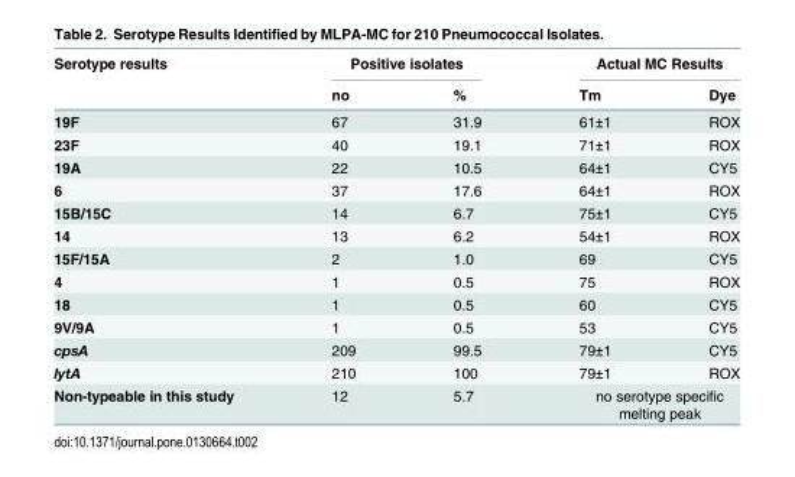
<table><thead><tr><td rowspan="2">Serotype results</td><td colspan="2">Positive isolates</td><td colspan="2">Actual MC Results</td></tr><tr><td>no</td><td>%</td><td>Tm</td><td>Dye</td></tr></thead><tbody><tr><td>19F</td><td>67</td><td>31.9</td><td>61±1</td><td>ROX</td></tr><tr><td>23F</td><td>40</td><td>19.1</td><td>71±1</td><td>ROX</td></tr><tr><td>19A</td><td>22</td><td>10.5</td><td>64±1</td><td>CY5</td></tr><tr><td>6</td><td>37</td><td>17.6</td><td>64±1</td><td>ROX</td></tr><tr><td>15B/15C</td><td>14</td><td>6.7</td><td>75±1</td><td>CY5</td></tr><tr><td>14</td><td>13</td><td>6.2</td><td>54±1</td><td>ROX</td></tr><tr><td>15F/15A</td><td>2</td><td>1.0</td><td>69</td><td>CY5</td></tr><tr><td>4</td><td>1</td><td>0.5</td><td>75</td><td>ROX</td></tr><tr><td>18</td><td>1</td><td>0.5</td><td>60</td><td>CY5</td></tr><tr><td>9V/9A</td><td>1</td><td>0.5</td><td>53</td><td>CY5</td></tr><tr><td>cpsA</td><td>209</td><td>99.5</td><td>79±1</td><td>CY5</td></tr><tr><td>lytA</td><td>210</td><td>100</td><td>79±1</td><td>ROX</td></tr><tr><td>Non-typeable in this study</td><td>12</td><td>5.7</td><td colspan="2">no serotype specific melting peak</td></tr></tbody></table>